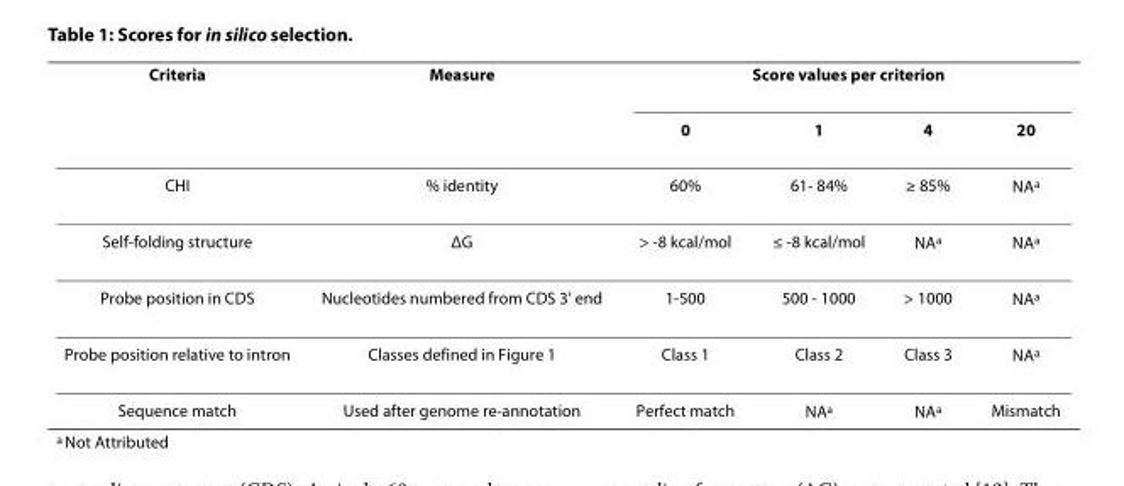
<table><thead><tr><td rowspan="2">Criteria</td><td rowspan="2">Measure</td><td colspan="4">Score values per criterion</td></tr><tr><td>0</td><td>1</td><td>4</td><td>20</td></tr></thead><tbody><tr><td>CHI</td><td>% identity</td><td>60%</td><td>61- 84%</td><td>≥ 85%</td><td>NA<sup>a</sup></td></tr><tr><td>Self-folding structure</td><td>ΔG</td><td>&gt; -8 kcal/mol</td><td>≤ -8 kcal/mol</td><td>NA<sup>a</sup></td><td>NA<sup>a</sup></td></tr><tr><td>Probe position in CDS</td><td>Nucleotides numbered from CDS 3&#x27; end</td><td>1-500</td><td>500 - 1000</td><td>&gt; 1000</td><td>NA<sup>a</sup></td></tr><tr><td>Probe position relative to intron</td><td>Classes defined in Figure 1</td><td>Class 1</td><td>Class 2</td><td>Class 3</td><td>NA<sup>a</sup></td></tr><tr><td>Sequence match</td><td>Used after genome re-annotation</td><td>Perfect match</td><td>NA<sup>a</sup></td><td>NA<sup>a</sup></td><td>Mismatch</td></tr></tbody></table>